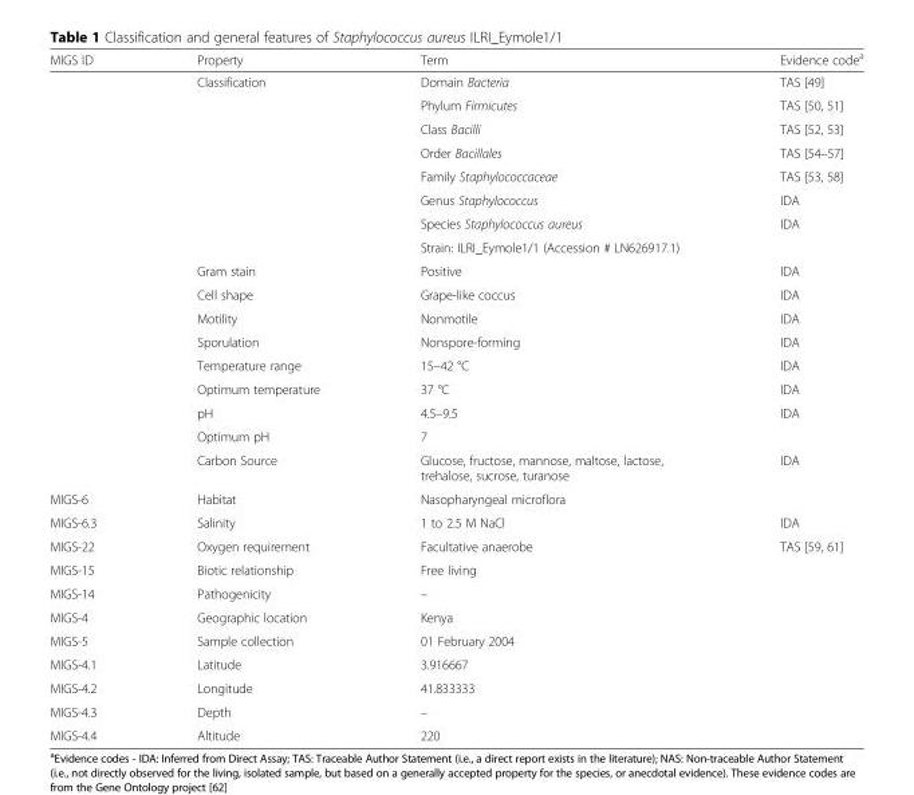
<table><thead><tr><td>MIGS ID</td><td>Property</td><td>Term</td><td>Evidence code<sup>a</sup></td></tr></thead><tbody><tr><td></td><td>Classification</td><td>Domain Bacteria</td><td>TAS [49]</td></tr><tr><td></td><td></td><td>Phylum Firmicutes</td><td>TAS [50, 51]</td></tr><tr><td></td><td></td><td>Class Bacilli</td><td>TAS [52, 53]</td></tr><tr><td></td><td></td><td>Order Bacillales</td><td>TAS [54–57]</td></tr><tr><td></td><td></td><td>Family Staphylococcaceae</td><td>TAS [53, 58]</td></tr><tr><td></td><td></td><td>Genus Staphylococcus</td><td>IDA</td></tr><tr><td></td><td></td><td>Species Staphylococcus aureus</td><td>IDA</td></tr><tr><td></td><td></td><td>Strain: ILRI_Eymole1/1 (Accession # LN626917.1)</td><td></td></tr><tr><td></td><td>Gram stain</td><td>Positive</td><td>IDA</td></tr><tr><td></td><td>Cell shape</td><td>Grape-like coccus</td><td>IDA</td></tr><tr><td></td><td>Motility</td><td>Nonmotile</td><td>IDA</td></tr><tr><td></td><td>Sporulation</td><td>Nonspore-forming</td><td>IDA</td></tr><tr><td></td><td>Temperature range</td><td>15–42 °C</td><td>IDA</td></tr><tr><td></td><td>Optimum temperature</td><td>37 °C</td><td>IDA</td></tr><tr><td rowspan="2"></td><td>pH</td><td>4.5–9.5</td><td rowspan="2">IDA</td></tr><tr><td>Optimum pH</td><td>7</td></tr><tr><td></td><td>Carbon Source</td><td>Glucose, fructose, mannose, maltose, lactose, trehalose, sucrose, turanose</td><td>IDA</td></tr><tr><td>MIGS-6</td><td>Habitat</td><td>Nasopharyngeal microflora</td><td></td></tr><tr><td>MIGS-6.3</td><td>Salinity</td><td>1 to 2.5 M NaCl</td><td>IDA</td></tr><tr><td>MIGS-22</td><td>Oxygen requirement</td><td>Facultative anaerobe</td><td>TAS [59, 61]</td></tr><tr><td>MIGS-15</td><td>Biotic relationship</td><td>Free living</td><td></td></tr><tr><td>MIGS-14</td><td>Pathogenicity</td><td>–</td><td></td></tr><tr><td>MIGS-4</td><td>Geographic location</td><td>Kenya</td><td></td></tr><tr><td>MIGS-5</td><td>Sample collection</td><td>01 February 2004</td><td></td></tr><tr><td>MIGS-4.1</td><td>Latitude</td><td>3.916667</td><td></td></tr><tr><td>MIGS-4.2</td><td>Longitude</td><td>41.833333</td><td></td></tr><tr><td>MIGS-4.3</td><td>Depth</td><td>–</td><td></td></tr><tr><td>MIGS-4.4</td><td>Altitude</td><td>220</td><td></td></tr></tbody></table>